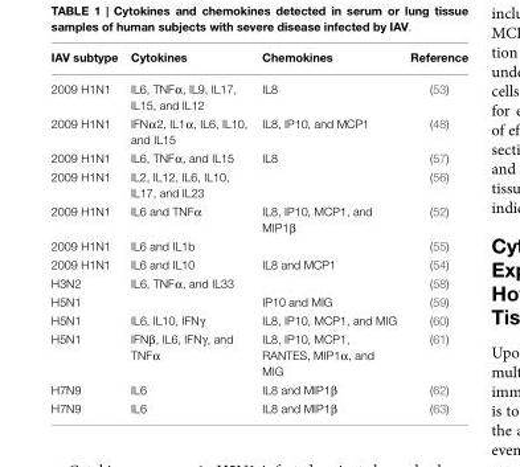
<table><thead><tr><td>IAV subtype</td><td>Cytokines</td><td>Chemokines</td><td>Reference</td></tr></thead><tbody><tr><td>2009 H1N1</td><td>IL6, TNFα, IL9, IL17, IL15, and IL12</td><td>IL8</td><td>(53)</td></tr><tr><td>2009 H1N1</td><td>IFNα2, IL1α, IL6, IL10, and IL15</td><td>IL8, IP10, and MCP1</td><td>(48)</td></tr><tr><td>2009 H1N1</td><td>IL6, TNFα, and IL15</td><td>IL8</td><td>(57)</td></tr><tr><td>2009 H1N1</td><td>IL2, IL12, IL6, IL10, IL17, and IL23</td><td></td><td>(56)</td></tr><tr><td>2009 H1N1</td><td>IL6 and TNFα</td><td>IL8, IP10, MCP1, and MIP1β</td><td>(52)</td></tr><tr><td>2009 H1N1</td><td>IL6 and IL1b</td><td></td><td>(55)</td></tr><tr><td>2009 H1N1</td><td>IL6 and IL10</td><td>IL8 and MCP1</td><td>(54)</td></tr><tr><td>H3N2</td><td>IL6, TNFα, and IL33</td><td></td><td>(58)</td></tr><tr><td>H5N1</td><td></td><td>IP10 and MIG</td><td>(59)</td></tr><tr><td>H5N1</td><td>IL6, IL10, IFNγ</td><td>IL8, IP10, MCP1, and MIG</td><td>(60)</td></tr><tr><td>H5N1</td><td>IFNβ, IL6, IFNγ, and TNFα</td><td>IL8, IP10, MCP1, RANTES, MIP1α, and MIG</td><td>(61)</td></tr><tr><td>H7N9</td><td>IL6</td><td>IL8 and MIP1β</td><td>(62)</td></tr><tr><td>H7N9</td><td>IL6</td><td>IL8 and MIP1β</td><td>(63)</td></tr></tbody></table>